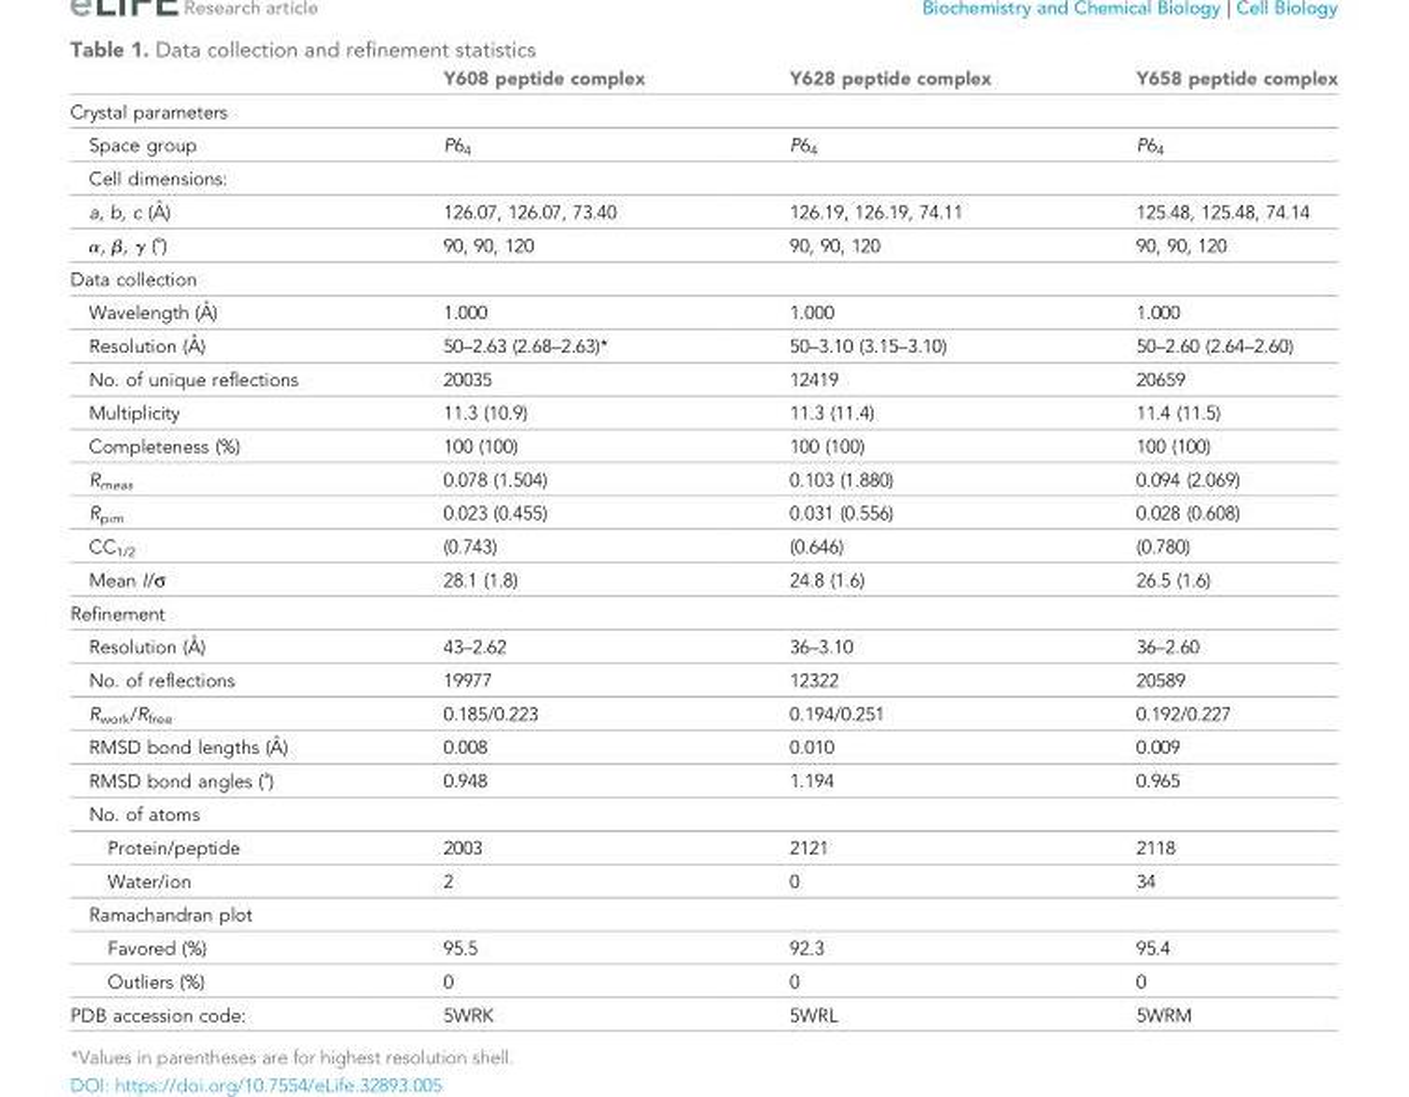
<table><thead><tr><td></td><td>Y608 peptide complex</td><td>Y628 peptide complex</td><td>Y658 peptide complex</td></tr></thead><tbody><tr><td colspan="4">Crystal parameters</td></tr><tr><td>Space group</td><td>P6<sub>4</sub></td><td>P6<sub>4</sub></td><td>P6<sub>4</sub></td></tr><tr><td colspan="4">Cell dimensions:</td></tr><tr><td>a, b, c (A˚ )</td><td>126.07, 126.07, 73.40</td><td>126.19, 126.19, 74.11</td><td>125.48, 125.48, 74.14</td></tr><tr><td>α, β, γ (˚)</td><td>90, 90, 120</td><td>90, 90, 120</td><td>90, 90, 120</td></tr><tr><td colspan="4">Data collection</td></tr><tr><td>Wavelength (A˚ )</td><td>1.000</td><td>1.000</td><td>1.000</td></tr><tr><td>Resolution (A˚ )</td><td>50–2.63 (2.68–2.63)*</td><td>50–3.10 (3.15–3.10)</td><td>50–2.60 (2.64–2.60)</td></tr><tr><td>No. of unique reflections</td><td>20035</td><td>12419</td><td>20659</td></tr><tr><td>Multiplicity</td><td>11.3 (10.9)</td><td>11.3 (11.4)</td><td>11.4 (11.5)</td></tr><tr><td>Completeness (%)</td><td>100 (100)</td><td>100 (100)</td><td>100 (100)</td></tr><tr><td>R<sub>meas</sub></td><td>0.078 (1.504)</td><td>0.103 (1.880)</td><td>0.094 (2.069)</td></tr><tr><td>R<sub>pim</sub></td><td>0.023 (0.455)</td><td>0.031 (0.556)</td><td>0.028 (0.608)</td></tr><tr><td>CC<sub>1/2</sub></td><td>(0.743)</td><td>(0.646)</td><td>(0.780)</td></tr><tr><td>Mean I/σ</td><td>28.1 (1.8)</td><td>24.8 (1.6)</td><td>26.5 (1.6)</td></tr><tr><td colspan="4">Refinement</td></tr><tr><td>Resolution (A˚ )</td><td>43–2.62</td><td>36–3.10</td><td>36–2.60</td></tr><tr><td>No. of reflections</td><td>19977</td><td>12322</td><td>20589</td></tr><tr><td>R<sub>work</sub>/R<sub>free</sub></td><td>0.185/0.223</td><td>0.194/0.251</td><td>0.192/0.227</td></tr><tr><td>RMSD bond lengths (A˚ )</td><td>0.008</td><td>0.010</td><td>0.009</td></tr><tr><td>RMSD bond angles (˚)</td><td>0.948</td><td>1.194</td><td>0.965</td></tr><tr><td colspan="4">No. of atoms</td></tr><tr><td>Protein/peptide</td><td>2003</td><td>2121</td><td>2118</td></tr><tr><td>Water/ion</td><td>2</td><td>0</td><td>34</td></tr><tr><td colspan="4">Ramachandran plot</td></tr><tr><td>Favored (%)</td><td>95.5</td><td>92.3</td><td>95.4</td></tr><tr><td>Outliers (%)</td><td>0</td><td>0</td><td>0</td></tr><tr><td>PDB accession code:</td><td>5WRK</td><td>5WRL</td><td>5WRM</td></tr></tbody></table>